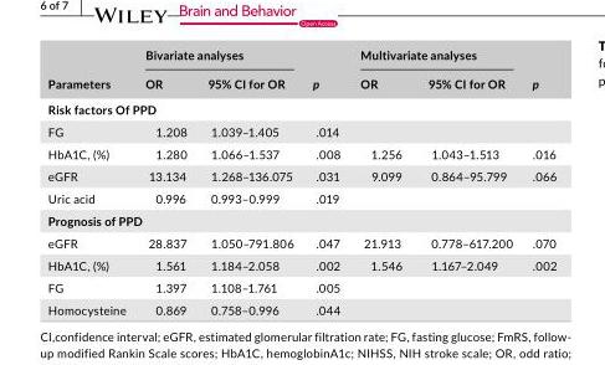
<table><thead><tr><td rowspan="2">Parameters</td><td colspan="2">Bivariate analyses</td><td rowspan="2">p</td><td colspan="2">Multivariate analyses</td><td rowspan="2">p</td></tr><tr><td>OR</td><td>95% CI for OR</td><td>OR</td><td>95% CI for OR</td></tr></thead><tbody><tr><td colspan="7">Risk factors Of PPD</td></tr><tr><td>FG</td><td>1.208</td><td>1.039–1.405</td><td>.014</td><td></td><td></td><td></td></tr><tr><td>HbA1C, (%)</td><td>1.280</td><td>1.066–1.537</td><td>.008</td><td>1.256</td><td>1.043–1.513</td><td>.016</td></tr><tr><td>eGFR</td><td>13.134</td><td>1.268–136.075</td><td>.031</td><td>9.099</td><td>0.864–95.799</td><td>.066</td></tr><tr><td>Uric acid</td><td>0.996</td><td>0.993–0.999</td><td>.019</td><td></td><td></td><td></td></tr><tr><td colspan="7">Prognosis of PPD</td></tr><tr><td>eGFR</td><td>28.837</td><td>1.050–791.806</td><td>.047</td><td>21.913</td><td>0.778–617.200</td><td>.070</td></tr><tr><td>HbA1C, (%)</td><td>1.561</td><td>1.184–2.058</td><td>.002</td><td>1.546</td><td>1.167–2.049</td><td>.002</td></tr><tr><td>FG</td><td>1.397</td><td>1.108–1.761</td><td>.005</td><td></td><td></td><td></td></tr><tr><td>Homocysteine</td><td>0.869</td><td>0.758–0.996</td><td>.044</td><td></td><td></td><td></td></tr></tbody></table>